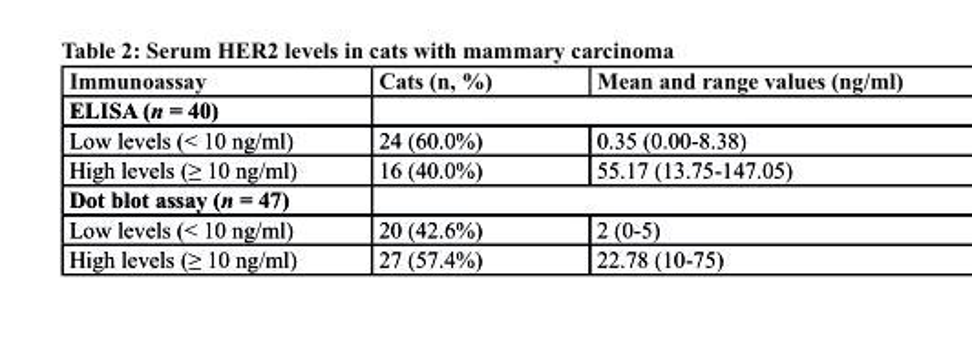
<table><thead><tr><td>Immunoassay</td><td>cats (n, %)</td><td>Mean and range values (ng/ml)</td></tr></thead><tbody><tr><td colspan="3">elIsA (n = 40)</td></tr><tr><td>Low levels (&lt; 10 ng/ml)</td><td>24 (60.0%)</td><td>0.35 (0.00-8.38)</td></tr><tr><td>High levels (≥ 10 ng/ml)</td><td>16 (40.0%)</td><td>55.17 (13.75-147.05)</td></tr><tr><td colspan="3">dot blot assay (n = 47)</td></tr><tr><td>Low levels (&lt; 10 ng/ml)</td><td>20 (42.6%)</td><td>2 (0-5)</td></tr><tr><td>High levels (≥ 10 ng/ml)</td><td>27 (57.4%)</td><td>22.78 (10-75)</td></tr></tbody></table>